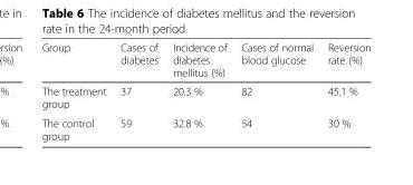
<table><thead><tr><td>Group</td><td>Cases of diabetes</td><td>Incidence of diabetes mellitus (%)</td><td>Cases of normal blood glucose</td><td>Reversion rate (%)</td></tr></thead><tbody><tr><td>The treatment group</td><td>37</td><td>20.3 %</td><td>82</td><td>45.1 %</td></tr><tr><td>The control group</td><td>59</td><td>32.8 %</td><td>54</td><td>30 %</td></tr></tbody></table>